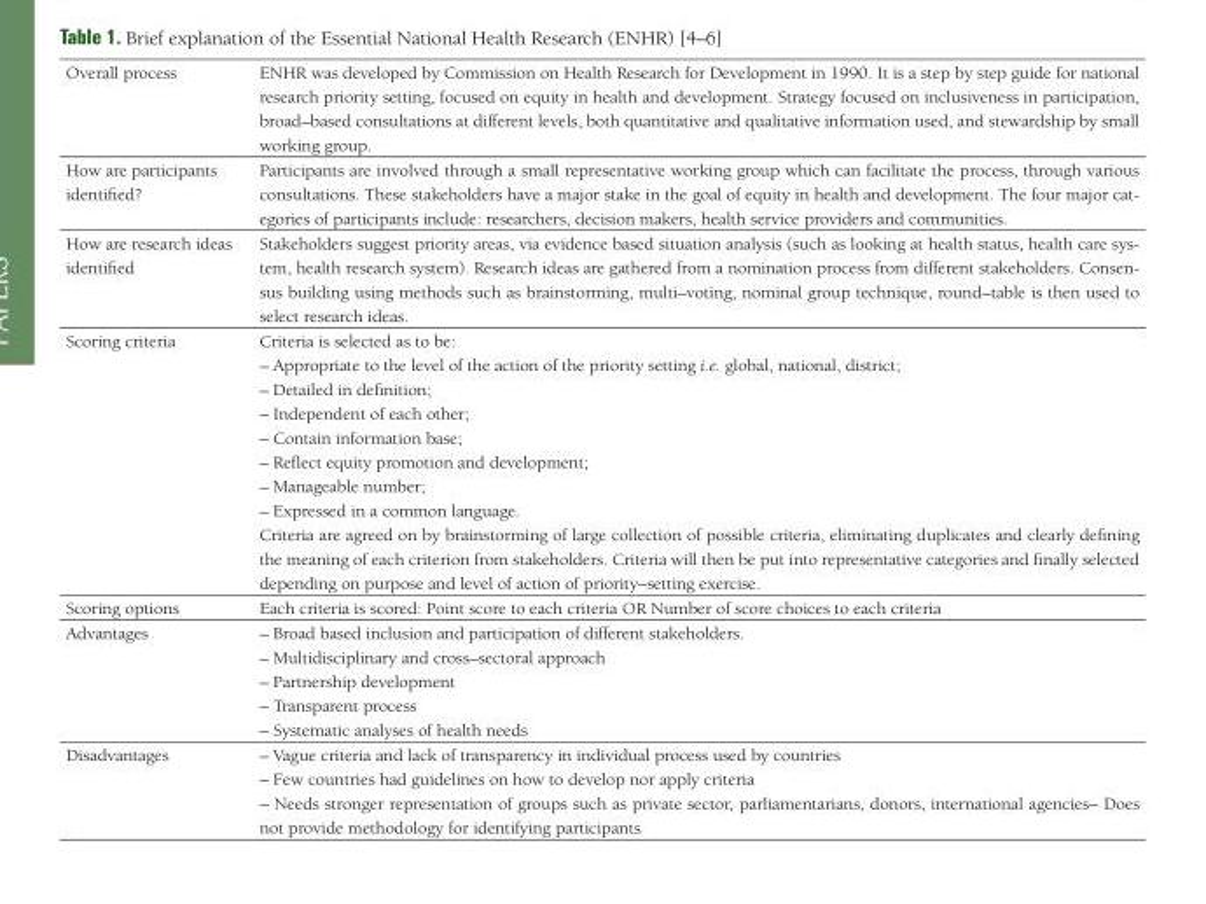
<table><tbody><tr><td>Overall process</td><td>ENHR was developed by Commission on Health Research for Development in 1990. It is a step by step guide for national research priority setting, focused on equity in health and development. Strategy focused on inclusiveness in participation, broad–based consultations at different levels, both quantitative and qualitative information used, and stewardship by small working group.</td></tr><tr><td>How are participants identified?</td><td>Participants are involved through a small representative working group which can facilitate the process, through various consultations. These stakeholders have a major stake in the goal of equity in health and development. The four major cat- egories of participants include: researchers, decision makers, health service providers and communities.</td></tr><tr><td>How are research ideas identified</td><td>Stakeholders suggest priority areas, via evidence based situation analysis (such as looking at health status, health care sys- tem, health research system). Research ideas are gathered from a nomination process from different stakeholders. Consen- sus building using methods such as brainstorming, multi–voting, nominal group technique, round–table is then used to select research ideas.</td></tr><tr><td>Scoring criteria</td><td>Criteria is selected as to be: – Appropriate to the level of the action of the priority setting i.e. global, national, district; – Detailed in definition; – Independent of each other; – Contain information base; – Reflect equity promotion and development; – Manageable number; – Expressed in a common language. Criteria are agreed on by brainstorming of large collection of possible criteria, eliminating duplicates and clearly defining the meaning of each criterion from stakeholders. Criteria will then be put into representative categories and finally selected depending on purpose and level of action of priority–setting exercise.</td></tr><tr><td>Scoring options</td><td>Each criteria is scored: Point score to each criteria OR Number of score choices to each criteria</td></tr><tr><td>Advantages</td><td>– Broad based inclusion and participation of different stakeholders. – Multidisciplinary and cross–sectoral approach – Partnership development – Transparent process – Systematic analyses of health needs</td></tr><tr><td>Disadvantages</td><td>– Vague criteria and lack of transparency in individual process used by countries – Few countries had guidelines on how to develop nor apply criteria – Needs stronger representation of groups such as private sector, parliamentarians, donors, international agencies– Does not provide methodology for identifying participants</td></tr></tbody></table>